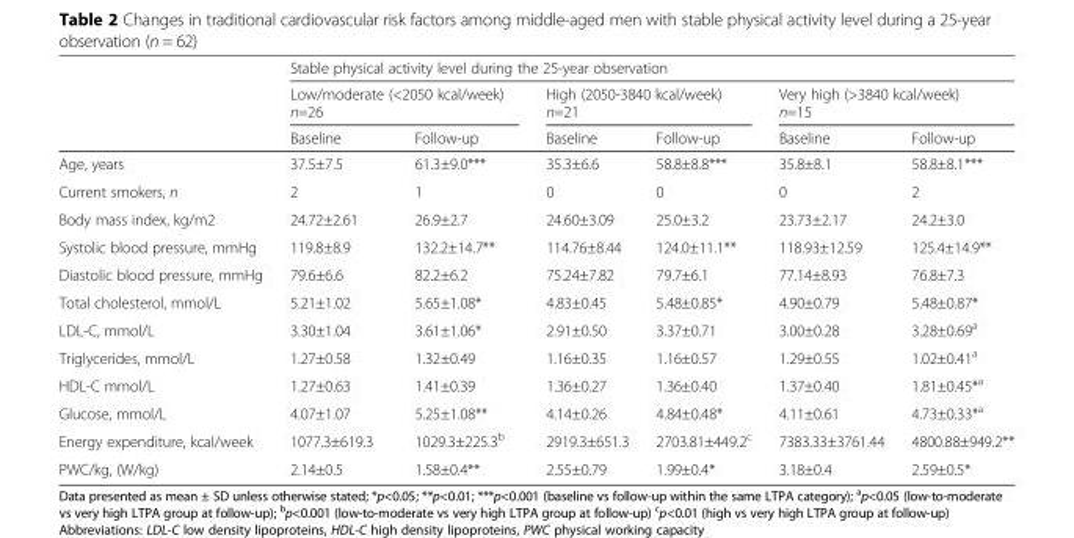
<table><thead><tr><td rowspan="4"></td><td colspan="6">Stable physical activity level during the 25-year observation</td></tr><tr><td rowspan="2" colspan="2">Low/moderate (&lt;2050 kcal/week) n=26</td><td rowspan="2" colspan="2">High (2050-3840 kcal/week) n=21</td><td rowspan="2" colspan="2">Very high (&gt;3840 kcal/week) n=15</td></tr><tr></tr><tr><td>Baseline</td><td>Follow-up</td><td>Baseline</td><td>Follow-up</td><td>Baseline</td><td>Follow-up</td></tr></thead><tbody><tr><td>Age, years</td><td>37.5±7.5</td><td>61.3±9.0***</td><td>35.3±6.6</td><td>58.8±8.8***</td><td>35.8±8.1</td><td>58.8±8.1***</td></tr><tr><td>Current smokers, n</td><td>2</td><td>1</td><td>0</td><td>0</td><td>0</td><td>2</td></tr><tr><td>Body mass index, kg/m2</td><td>24.72±2.61</td><td>26.9±2.7</td><td>24.60±3.09</td><td>25.0±3.2</td><td>23.73±2.17</td><td>24.2±3.0</td></tr><tr><td>Systolic blood pressure, mmHg</td><td>119.8±8.9</td><td>132.2±14.7**</td><td>114.76±8.44</td><td>124.0±11.1**</td><td>118.93±12.59</td><td>125.4±14.9**</td></tr><tr><td>Diastolic blood pressure, mmHg</td><td>79.6±6.6</td><td>82.2±6.2</td><td>75.24±7.82</td><td>79.7±6.1</td><td>77.14±8.93</td><td>76.8±7.3</td></tr><tr><td>Total cholesterol, mmol/L</td><td>5.21±1.02</td><td>5.65±1.08*</td><td>4.83±0.45</td><td>5.48±0.85*</td><td>4.90±0.79</td><td>5.48±0.87*</td></tr><tr><td>LDL-C, mmol/L</td><td>3.30±1.04</td><td>3.61±1.06*</td><td>2.91±0.50</td><td>3.37±0.71</td><td>3.00±0.28</td><td>3.28±0.69<sup>a</sup></td></tr><tr><td>Triglycerides, mmol/L</td><td>1.27±0.58</td><td>1.32±0.49</td><td>1.16±0.35</td><td>1.16±0.57</td><td>1.29±0.55</td><td>1.02±0.41<sup>a</sup></td></tr><tr><td>HDL-C mmol/L</td><td>1.27±0.63</td><td>1.41±0.39</td><td>1.36±0.27</td><td>1.36±0.40</td><td>1.37±0.40</td><td>1.81±0.45*<sup>a</sup></td></tr><tr><td>Glucose, mmol/L</td><td>4.07±1.07</td><td>5.25±1.08**</td><td>4.14±0.26</td><td>4.84±0.48*</td><td>4.11±0.61</td><td>4.73±0.33*<sup>a</sup></td></tr><tr><td>Energy expenditure, kcal/week</td><td>1077.3±619.3</td><td>1029.3±225.3<sup>b</sup></td><td>2919.3±651.3</td><td>2703.81±449.2<sup>c</sup></td><td>7383.33±3761.44</td><td>4800.88±949.2**</td></tr><tr><td>PWC/kg, (W/kg)</td><td>2.14±0.5</td><td>1.58±0.4**</td><td>2.55±0.79</td><td>1.99±0.4*</td><td>3.18±0.4</td><td>2.59±0.5*</td></tr></tbody></table>